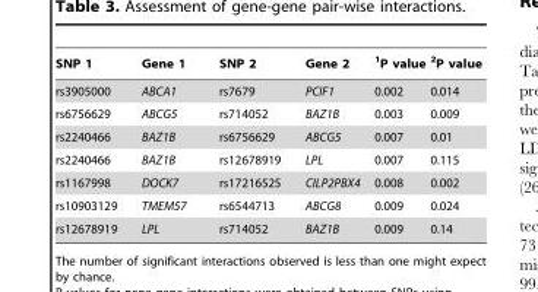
<table><thead><tr><td>SNP 1</td><td>Gene 1</td><td>SNP 2</td><td>Gene 2</td><td><sup>1</sup>P value</td><td><sup>2</sup>P value</td></tr></thead><tbody><tr><td>rs3905000</td><td>ABCA1</td><td>rs7679</td><td>PCIF1</td><td>0.002</td><td>0.014</td></tr><tr><td>rs6756629</td><td>ABCG5</td><td>rs714052</td><td>BAZ1B</td><td>0.003</td><td>0.009</td></tr><tr><td>rs2240466</td><td>BAZ1B</td><td>rs6756629</td><td>ABCG5</td><td>0.007</td><td>0.01</td></tr><tr><td>rs2240466</td><td>BAZ1B</td><td>rs12678919</td><td>LPL</td><td>0.007</td><td>0.115</td></tr><tr><td>rs1167998</td><td>DOCK7</td><td>rs17216525</td><td>CILP2PBX4</td><td>0.008</td><td>0.002</td></tr><tr><td>rs10903129</td><td>TMEM57</td><td>rs6544713</td><td>ABCG8</td><td>0.009</td><td>0.024</td></tr><tr><td>rs12678919</td><td>LPL</td><td>rs714052</td><td>BAZ1B</td><td>0.009</td><td>0.14</td></tr></tbody></table>